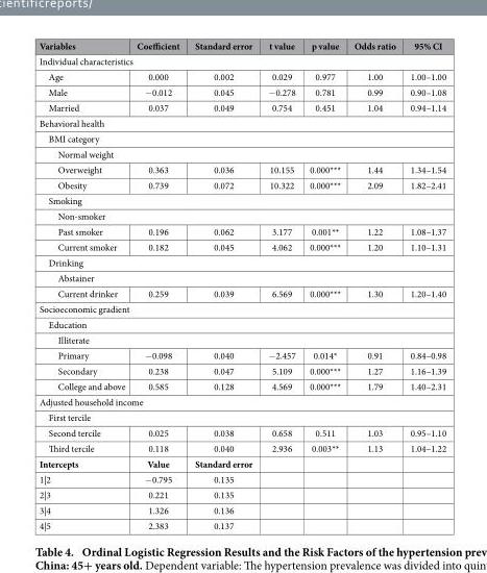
<table><thead><tr><td>Variables</td><td>Coefficient</td><td>Standard error</td><td>t value</td><td>p value</td><td>Odds ratio</td><td>95% CI</td></tr></thead><tbody><tr><td colspan="7">Individual characteristics</td></tr><tr><td>Age</td><td>0.000</td><td>0.002</td><td>0.029</td><td>0.977</td><td>1.00</td><td>1.00–1.00</td></tr><tr><td>Male</td><td>− 0.012</td><td>0.045</td><td>− 0.278</td><td>0.781</td><td>0.99</td><td>0.90–1.08</td></tr><tr><td>Married</td><td>0.037</td><td>0.049</td><td>0.754</td><td>0.451</td><td>1.04</td><td>0.94–1.14</td></tr><tr><td colspan="7">Behavioral health</td></tr><tr><td colspan="7">BMI category</td></tr><tr><td colspan="7">Normal weight</td></tr><tr><td>Overweight</td><td>0.363</td><td>0.036</td><td>10.155</td><td>0.000***</td><td>1.44</td><td>1.34–1.54</td></tr><tr><td>Obesity</td><td>0.739</td><td>0.072</td><td>10.322</td><td>0.000***</td><td>2.09</td><td>1.82–2.41</td></tr><tr><td colspan="7">Smoking</td></tr><tr><td colspan="7">Non-smoker</td></tr><tr><td>Past smoker</td><td>0.196</td><td>0.062</td><td>3.177</td><td>0.001**</td><td>1.22</td><td>1.08–1.37</td></tr><tr><td>Current smoker</td><td>0.182</td><td>0.045</td><td>4.062</td><td>0.000***</td><td>1.20</td><td>1.10–1.31</td></tr><tr><td colspan="7">Drinking</td></tr><tr><td colspan="7">Abstainer</td></tr><tr><td>Current drinker</td><td>0.259</td><td>0.039</td><td>6.569</td><td>0.000***</td><td>1.30</td><td>1.20–1.40</td></tr><tr><td colspan="7">Socioeconomic gradient</td></tr><tr><td colspan="7">Education</td></tr><tr><td colspan="7">Illiterate</td></tr><tr><td>Primary</td><td>− 0.098</td><td>0.040</td><td>− 2.457</td><td>0.014*</td><td>0.91</td><td>0.84–0.98</td></tr><tr><td>Secondary</td><td>0.238</td><td>0.047</td><td>5.109</td><td>0.000***</td><td>1.27</td><td>1.16–1.39</td></tr><tr><td>College and above</td><td>0.585</td><td>0.128</td><td>4.569</td><td>0.000***</td><td>1.79</td><td>1.40–2.31</td></tr><tr><td colspan="7">Adjusted household income</td></tr><tr><td colspan="7">First tercile</td></tr><tr><td>Second tercile</td><td>0.025</td><td>0.038</td><td>0.658</td><td>0.511</td><td>1.03</td><td>0.95–1.10</td></tr><tr><td>Third tercile</td><td>0.118</td><td>0.040</td><td>2.936</td><td>0.003**</td><td>1.13</td><td>1.04–1.22</td></tr><tr><td>Intercepts</td><td>Value</td><td>Standard error</td><td></td><td></td><td></td><td></td></tr><tr><td>1|2</td><td>− 0.795</td><td>0.135</td><td></td><td></td><td></td><td></td></tr><tr><td>2|3</td><td>0.221</td><td>0.135</td><td></td><td></td><td></td><td></td></tr><tr><td>3|4</td><td>1.326</td><td>0.136</td><td></td><td></td><td></td><td></td></tr><tr><td>4|5</td><td>2.383</td><td>0.137</td><td></td><td></td><td></td><td></td></tr></tbody></table>